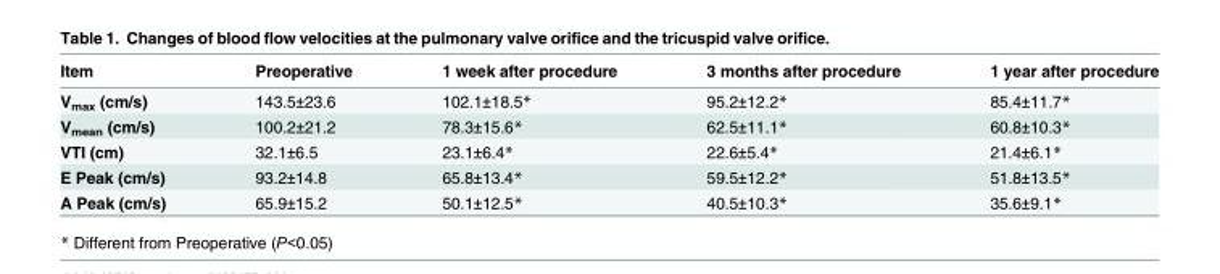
<table><thead><tr><td>Item</td><td>Preoperative</td><td>1 week after procedure</td><td>3 months after procedure</td><td>1 year after procedure</td></tr></thead><tbody><tr><td>V<sub>max</sub> (cm/s)</td><td>143.5±23.6</td><td>102.1±18.5*</td><td>95.2±12.2*</td><td>85.4±11.7*</td></tr><tr><td>V<sub>mean</sub> (cm/s)</td><td>100.2±21.2</td><td>78.3±15.6*</td><td>62.5±11.1*</td><td>60.8±10.3*</td></tr><tr><td>VTI (cm)</td><td>32.1±6.5</td><td>23.1±6.4*</td><td>22.6±5.4*</td><td>21.4±6.1*</td></tr><tr><td>E Peak (cm/s)</td><td>93.2±14.8</td><td>65.8±13.4*</td><td>59.5±12.2*</td><td>51.8±13.5*</td></tr><tr><td>A Peak (cm/s)</td><td>65.9±15.2</td><td>50.1±12.5*</td><td>40.5±10.3*</td><td>35.6±9.1*</td></tr></tbody></table>